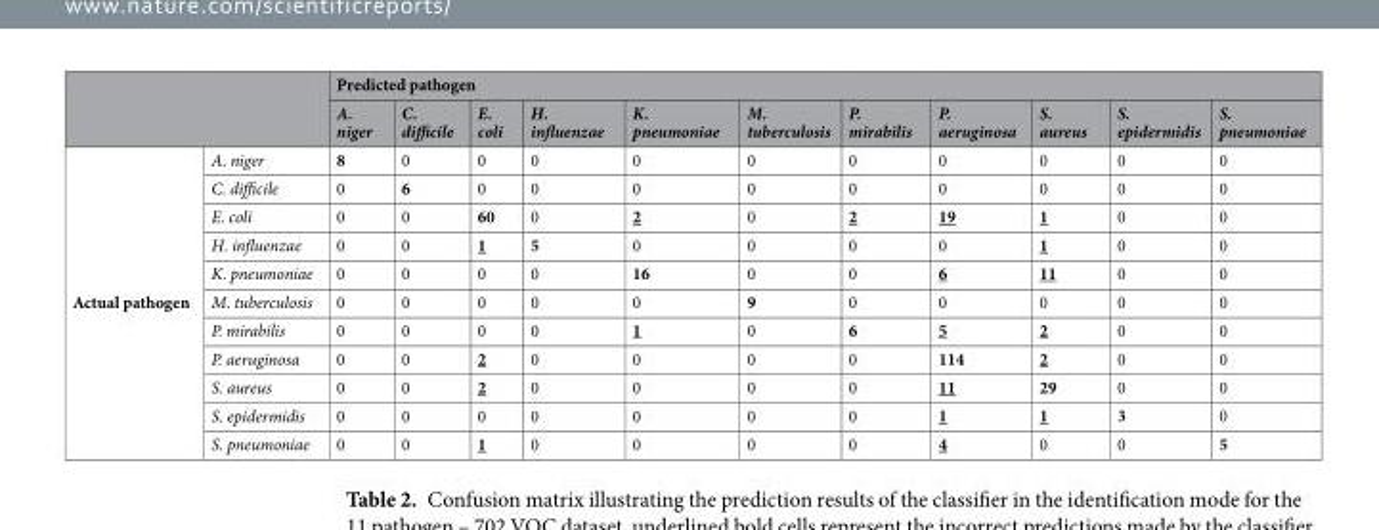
<table><thead><tr><td rowspan="2"></td><td rowspan="2"></td><td colspan="11">Predicted pathogen</td></tr><tr><td>A. niger</td><td>C. difficile</td><td>E. coli</td><td>H. influenzae</td><td>K. pneumoniae</td><td>M. tuberculosis</td><td>P. mirabilis</td><td>P. aeruginosa</td><td>S. aureus</td><td>S. epidermidis</td><td>S. pneumoniae</td></tr></thead><tbody><tr><td rowspan="11">Actual pathogen</td><td>A. niger</td><td>8</td><td>0</td><td>0</td><td>0</td><td>0</td><td>0</td><td>0</td><td>0</td><td>0</td><td>0</td><td>0</td></tr><tr><td>C. difficile</td><td>0</td><td>6</td><td>0</td><td>0</td><td>0</td><td>0</td><td>0</td><td>0</td><td>0</td><td>0</td><td>0</td></tr><tr><td>E. coli</td><td>0</td><td>0</td><td>60</td><td>0</td><td>2</td><td>0</td><td>2</td><td>19</td><td>1</td><td>0</td><td>0</td></tr><tr><td>H. influenzae</td><td>0</td><td>0</td><td>1</td><td>5</td><td>0</td><td>0</td><td>0</td><td>0</td><td>1</td><td>0</td><td>0</td></tr><tr><td>K. pneumoniae</td><td>0</td><td>0</td><td>0</td><td>0</td><td>16</td><td>0</td><td>0</td><td>6</td><td>11</td><td>0</td><td>0</td></tr><tr><td>M. tuberculosis</td><td>0</td><td>0</td><td>0</td><td>0</td><td>0</td><td>9</td><td>0</td><td>0</td><td>0</td><td>0</td><td>0</td></tr><tr><td>P. mirabilis</td><td>0</td><td>0</td><td>0</td><td>0</td><td>1</td><td>0</td><td>6</td><td>5</td><td>2</td><td>0</td><td>0</td></tr><tr><td>P. aeruginosa</td><td>0</td><td>0</td><td>2</td><td>0</td><td>0</td><td>0</td><td>0</td><td>114</td><td>2</td><td>0</td><td>0</td></tr><tr><td>S. aureus</td><td>0</td><td>0</td><td>2</td><td>0</td><td>0</td><td>0</td><td>0</td><td>11</td><td>29</td><td>0</td><td>0</td></tr><tr><td>S. epidermidis</td><td>0</td><td>0</td><td>0</td><td>0</td><td>0</td><td>0</td><td>0</td><td>1</td><td>1</td><td>3</td><td>0</td></tr><tr><td>S. pneumoniae</td><td>0</td><td>0</td><td>1</td><td>0</td><td>0</td><td>0</td><td>0</td><td>4</td><td>0</td><td>0</td><td>5</td></tr></tbody></table>